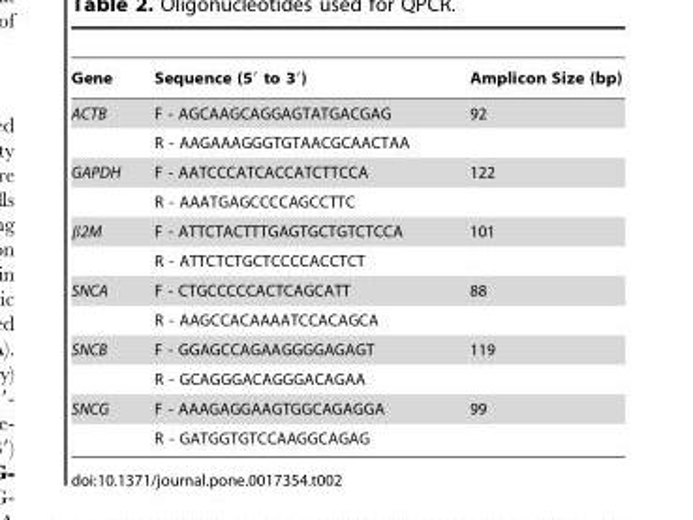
<table><thead><tr><td>Gene</td><td>Sequence (5′ to 3′)</td><td>Amplicon Size (bp)</td></tr></thead><tbody><tr><td rowspan="2">ACTB</td><td>F - AGCAAGCAGGAGTATGACGAG</td><td>92</td></tr><tr><td>R - AAGAAAGGGTGTAACGCAACTAA</td><td></td></tr><tr><td rowspan="2">GAPDH</td><td>F - AATCCCATCACCATCTTCCA</td><td>122</td></tr><tr><td>R - AAATGAGCCCCAGCCTTC</td><td></td></tr><tr><td rowspan="2">β2M</td><td>F - ATTCTACTTTGAGTGCTGTCTCCA</td><td>101</td></tr><tr><td>R - ATTCTCTGCTCCCCACCTCT</td><td></td></tr><tr><td rowspan="2">SNCA</td><td>F - CTGCCCCCACTCAGCATT</td><td>88</td></tr><tr><td>R - AAGCCACAAAATCCACAGCA</td><td></td></tr><tr><td rowspan="2">SNCB</td><td>F - GGAGCCAGAAGGGGAGAGT</td><td>119</td></tr><tr><td>R - GCAGGGACAGGGACAGAA</td><td></td></tr><tr><td rowspan="2">SNCG</td><td>F - AAAGAGGAAGTGGCAGAGGA</td><td>99</td></tr><tr><td>R - GATGGTGTCCAAGGCAGAG</td><td></td></tr></tbody></table>